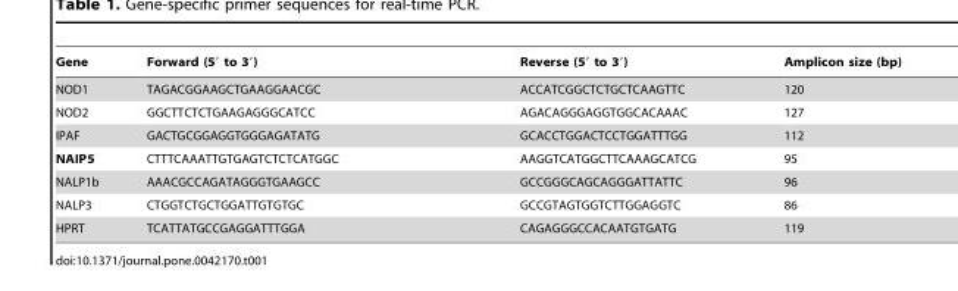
<table><thead><tr><td>Gene</td><td>Forward (5′ to 3′)</td><td>Reverse (5′ to 3′)</td><td>Amplicon size (bp)</td></tr></thead><tbody><tr><td>NOD1</td><td>TAGACGGAAGCTGAAGGAACGC</td><td>ACCATCGGCTCTGCTCAAGTTC</td><td>120</td></tr><tr><td>NOD2</td><td>GGCTTCTCTGAAGAGGGCATCC</td><td>AGACAGGGAGGTGGCACAAAC</td><td>127</td></tr><tr><td>IPAF</td><td>GACTGCGGAGGTGGGAGATATG</td><td>GCACCTGGACTCCTGGATTTGG</td><td>112</td></tr><tr><td>NAIP5</td><td>CTTTCAAATTGTGAGTCTCTCATGGC</td><td>AAGGTCATGGCTTCAAAGCATCG</td><td>95</td></tr><tr><td>NALP1b</td><td>AAACGCCAGATAGGGTGAAGCC</td><td>GCCGGGCAGCAGGGATTATTC</td><td>96</td></tr><tr><td>NALP3</td><td>CTGGTCTGCTGGATTGTGTGC</td><td>GCCGTAGTGGTCTTGGAGGTC</td><td>86</td></tr><tr><td>HPRT</td><td>TCATTATGCCGAGGATTTGGA</td><td>CAGAGGGCCACAATGTGATG</td><td>119</td></tr></tbody></table>